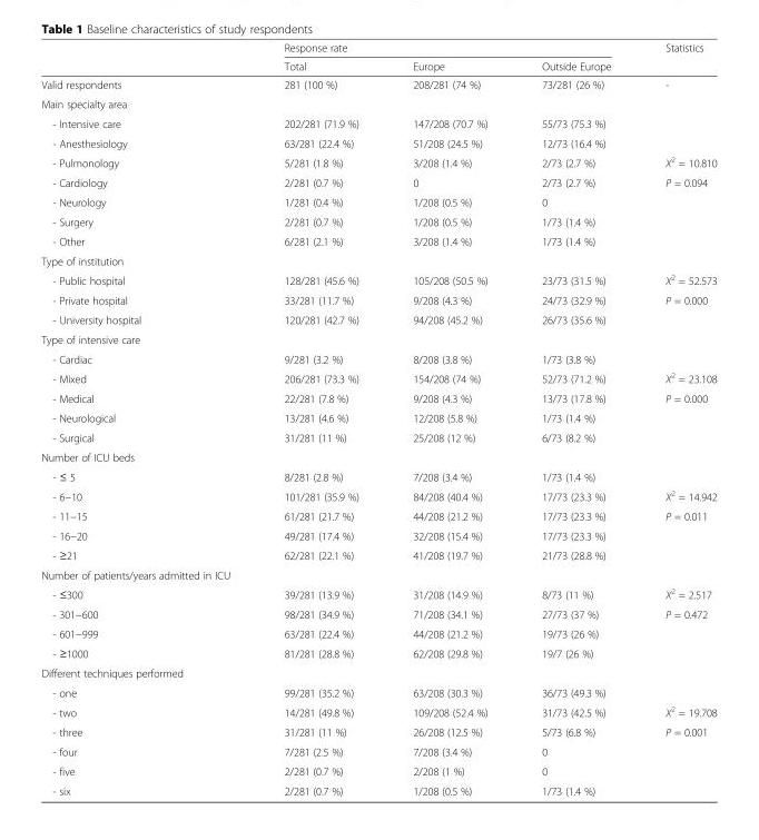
<table><thead><tr><td rowspan="2"></td><td colspan="3">Response rate</td><td rowspan="2">Statistics</td></tr><tr><td>Total</td><td>Europe</td><td>Outside Europe</td></tr></thead><tbody><tr><td>Valid respondents</td><td>281 (100 %)</td><td>208/281 (74 %)</td><td>73/281 (26 %)</td><td>-</td></tr><tr><td colspan="5">Main specialty area</td></tr><tr><td>- Intensive care</td><td>202/281 (71.9 %)</td><td>147/208 (70.7 %)</td><td>55/73 (75.3 %)</td><td></td></tr><tr><td>- Anesthesiology</td><td>63/281 (22.4 %)</td><td>51/208 (24.5 %)</td><td>12/73 (16.4 %)</td><td></td></tr><tr><td>- Pulmonology</td><td>5/281 (1.8 %)</td><td>3/208 (1.4 %)</td><td>2/73 (2.7 %)</td><td>X<sup>2</sup> = 10.810</td></tr><tr><td>- Cardiology</td><td>2/281 (0.7 %)</td><td>0</td><td>2/73 (2.7 %)</td><td>P = 0.094</td></tr><tr><td>- Neurology</td><td>1/281 (0.4 %)</td><td>1/208 (0.5 %)</td><td>0</td><td></td></tr><tr><td>- Surgery</td><td>2/281 (0.7 %)</td><td>1/208 (0.5 %)</td><td>1/73 (1.4 %)</td><td></td></tr><tr><td>- Other</td><td>6/281 (2.1 %)</td><td>3/208 (1.4 %)</td><td>1/73 (1.4 %)</td><td></td></tr><tr><td colspan="5">Type of institution</td></tr><tr><td>- Public hospital</td><td>128/281 (45.6 %)</td><td>105/208 (50.5 %)</td><td>23/73 (31.5 %)</td><td>X<sup>2</sup> = 52.573</td></tr><tr><td>- Private hospital</td><td>33/281 (11.7 %)</td><td>9/208 (4.3 %)</td><td>24/73 (32.9 %)</td><td>P = 0.000</td></tr><tr><td>- University hospital</td><td>120/281 (42.7 %)</td><td>94/208 (45.2 %)</td><td>26/73 (35.6 %)</td><td></td></tr><tr><td colspan="5">Type of intensive care</td></tr><tr><td>- Cardiac</td><td>9/281 (3.2 %)</td><td>8/208 (3.8 %)</td><td>1/73 (3.8 %)</td><td></td></tr><tr><td>- Mixed</td><td>206/281 (73.3 %)</td><td>154/208 (74 %)</td><td>52/73 (71.2 %)</td><td>X<sup>2</sup> = 23.108</td></tr><tr><td>- Medical</td><td>22/281 (7.8 %)</td><td>9/208 (4.3 %)</td><td>13/73 (17.8 %)</td><td>P = 0.000</td></tr><tr><td>- Neurological</td><td>13/281 (4.6 %)</td><td>12/208 (5.8 %)</td><td>1/73 (1.4 %)</td><td></td></tr><tr><td>- Surgical</td><td>31/281 (11 %)</td><td>25/208 (12 %)</td><td>6/73 (8.2 %)</td><td></td></tr><tr><td colspan="5">Number of ICU beds</td></tr><tr><td>- ≤ 5</td><td>8/281 (2.8 %)</td><td>7/208 (3.4 %)</td><td>1/73 (1.4 %)</td><td></td></tr><tr><td>- 6−10</td><td>101/281 (35.9 %)</td><td>84/208 (40.4 %)</td><td>17/73 (23.3 %)</td><td>X<sup>2</sup> = 14.942</td></tr><tr><td>- 11−15</td><td>61/281 (21.7 %)</td><td>44/208 (21.2 %)</td><td>17/73 (23.3 %)</td><td>P = 0.011</td></tr><tr><td>- 16−20</td><td>49/281 (17.4 %)</td><td>32/208 (15.4 %)</td><td>17/73 (23.3 %)</td><td></td></tr><tr><td>- ≥21</td><td>62/281 (22.1 %)</td><td>41/208 (19.7 %)</td><td>21/73 (28.8 %)</td><td></td></tr><tr><td colspan="5">Number of patients/years admitted in ICU</td></tr><tr><td>- ≤300</td><td>39/281 (13.9 %)</td><td>31/208 (14.9 %)</td><td>8/73 (11 %)</td><td>X<sup>2</sup> = 2.517</td></tr><tr><td>- 301−600</td><td>98/281 (34.9 %)</td><td>71/208 (34.1 %)</td><td>27/73 (37 %)</td><td>P = 0.472</td></tr><tr><td>- 601−999</td><td>63/281 (22.4 %)</td><td>44/208 (21.2 %)</td><td>19/73 (26 %)</td><td></td></tr><tr><td>- ≥1000</td><td>81/281 (28.8 %)</td><td>62/208 (29.8 %)</td><td>19/7 (26 %)</td><td></td></tr><tr><td colspan="5">Different techniques performed</td></tr><tr><td>- one</td><td>99/281 (35.2 %)</td><td>63/208 (30.3 %)</td><td>36/73 (49.3 %)</td><td></td></tr><tr><td>- two</td><td>14/281 (49.8 %)</td><td>109/208 (52.4 %)</td><td>31/73 (42.5 %)</td><td>X<sup>2</sup> = 19.708</td></tr><tr><td>- three</td><td>31/281 (11 %)</td><td>26/208 (12.5 %)</td><td>5/73 (6.8 %)</td><td>P = 0.001</td></tr><tr><td>- four</td><td>7/281 (2.5 %)</td><td>7/208 (3.4 %)</td><td>0</td><td></td></tr><tr><td>- five</td><td>2/281 (0.7 %)</td><td>2/208 (1 %)</td><td>0</td><td></td></tr><tr><td>- six</td><td>2/281 (0.7 %)</td><td>1/208 (0.5 %)</td><td>1/73 (1.4 %)</td><td></td></tr></tbody></table>